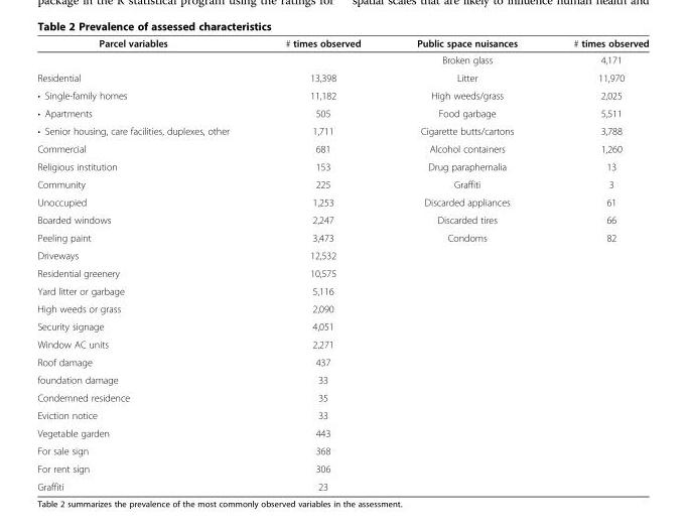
<table><thead><tr><td>Parcel variables</td><td># times observed</td><td>Public space nuisances</td><td># times observed</td></tr></thead><tbody><tr><td></td><td></td><td>Broken glass</td><td>4,171</td></tr><tr><td>Residential</td><td>13,398</td><td>Litter</td><td>11,970</td></tr><tr><td>• Single-family homes</td><td>11,182</td><td>High weeds/grass</td><td>2,025</td></tr><tr><td>• Apartments</td><td>505</td><td>Food garbage</td><td>5,511</td></tr><tr><td>• Senior housing, care facilities, duplexes, other</td><td>1,711</td><td>Cigarette butts/cartons</td><td>3,788</td></tr><tr><td>Commercial</td><td>681</td><td>Alcohol containers</td><td>1,260</td></tr><tr><td>Religious institution</td><td>153</td><td>Drug paraphernalia</td><td>13</td></tr><tr><td>Community</td><td>225</td><td>Graffiti</td><td>3</td></tr><tr><td>Unoccupied</td><td>1,253</td><td>Discarded appliances</td><td>61</td></tr><tr><td>Boarded windows</td><td>2,247</td><td>Discarded tires</td><td>66</td></tr><tr><td>Peeling paint</td><td>3,473</td><td>Condoms</td><td>82</td></tr><tr><td>Driveways</td><td>12,532</td><td></td><td></td></tr><tr><td>Residential greenery</td><td>10,575</td><td></td><td></td></tr><tr><td>Yard litter or garbage</td><td>5,116</td><td></td><td></td></tr><tr><td>High weeds or grass</td><td>2,090</td><td></td><td></td></tr><tr><td>Security signage</td><td>4,051</td><td></td><td></td></tr><tr><td>Window AC units</td><td>2,271</td><td></td><td></td></tr><tr><td>Roof damage</td><td>437</td><td></td><td></td></tr><tr><td>foundation damage</td><td>33</td><td></td><td></td></tr><tr><td>Condemned residence</td><td>35</td><td></td><td></td></tr><tr><td>Eviction notice</td><td>33</td><td></td><td></td></tr><tr><td>Vegetable garden</td><td>443</td><td></td><td></td></tr><tr><td>For sale sign</td><td>368</td><td></td><td></td></tr><tr><td>For rent sign</td><td>306</td><td></td><td></td></tr><tr><td>Graffiti</td><td>23</td><td></td><td></td></tr></tbody></table>